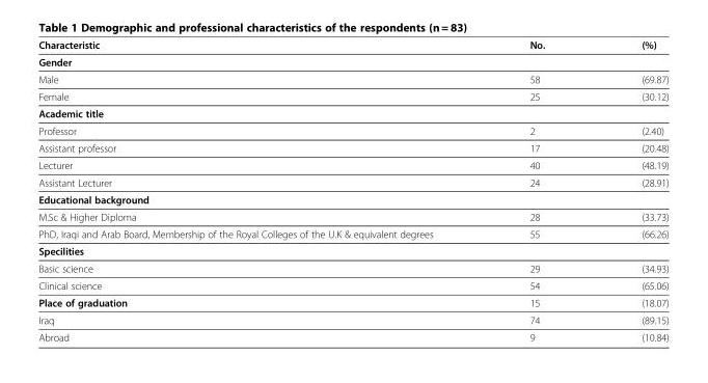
<table><thead><tr><td>Characteristic</td><td>No.</td><td>(%)</td></tr></thead><tbody><tr><td colspan="3">Gender</td></tr><tr><td>Male</td><td>58</td><td>(69.87)</td></tr><tr><td>Female</td><td>25</td><td>(30.12)</td></tr><tr><td colspan="3">Academic title</td></tr><tr><td>Professor</td><td>2</td><td>(2.40)</td></tr><tr><td>Assistant professor</td><td>17</td><td>(20.48)</td></tr><tr><td>Lecturer</td><td>40</td><td>(48.19)</td></tr><tr><td>Assistant Lecturer</td><td>24</td><td>(28.91)</td></tr><tr><td colspan="3">Educational background</td></tr><tr><td>M.Sc &amp; Higher Diploma</td><td>28</td><td>(33.73)</td></tr><tr><td>PhD, Iraqi and Arab Board, Membership of the Royal Colleges of the U.K &amp; equivalent degrees</td><td>55</td><td>(66.26)</td></tr><tr><td colspan="3">Specilities</td></tr><tr><td>Basic science</td><td>29</td><td>(34.93)</td></tr><tr><td>Clinical science</td><td>54</td><td>(65.06)</td></tr><tr><td>Place of graduation</td><td>15</td><td>(18.07)</td></tr><tr><td>Iraq</td><td>74</td><td>(89.15)</td></tr><tr><td>Abroad</td><td>9</td><td>(10.84)</td></tr></tbody></table>